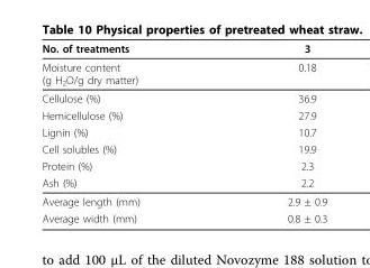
<table><thead><tr><td>No. of treatments</td><td>3</td></tr></thead><tbody><tr><td>Moisture content (g H<sub>2</sub>O/g dry matter)</td><td>0.18</td></tr><tr><td>Cellulose (%)</td><td>36.9</td></tr><tr><td>Hemicellulose (%)</td><td>27.9</td></tr><tr><td>Lignin (%)</td><td>10.7</td></tr><tr><td>Cell solubles (%)</td><td>19.9</td></tr><tr><td>Protein (%)</td><td>2.3</td></tr><tr><td>Ash (%)</td><td>2.2</td></tr><tr><td>Average length (mm)</td><td>2.9 ± 0.9</td></tr><tr><td>Average width (mm)</td><td>0.8 ± 0.3</td></tr></tbody></table>